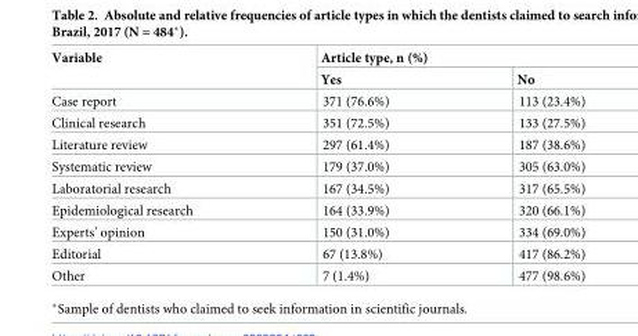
<table><thead><tr><td rowspan="2">Variable</td><td colspan="2">Article type, n (%)</td></tr><tr><td>Yes</td><td>No</td></tr></thead><tbody><tr><td>Case report</td><td>371 (76.6%)</td><td>113 (23.4%)</td></tr><tr><td>Clinical research</td><td>351 (72.5%)</td><td>133 (27.5%)</td></tr><tr><td>Literature review</td><td>297 (61.4%)</td><td>187 (38.6%)</td></tr><tr><td>Systematic review</td><td>179 (37.0%)</td><td>305 (63.0%)</td></tr><tr><td>Laboratorial research</td><td>167 (34.5%)</td><td>317 (65.5%)</td></tr><tr><td>Epidemiological research</td><td>164 (33.9%)</td><td>320 (66.1%)</td></tr><tr><td>Experts’ opinion</td><td>150 (31.0%)</td><td>334 (69.0%)</td></tr><tr><td>Editorial</td><td>67 (13.8%)</td><td>417 (86.2%)</td></tr><tr><td>Other</td><td>7 (1.4%)</td><td>477 (98.6%)</td></tr></tbody></table>